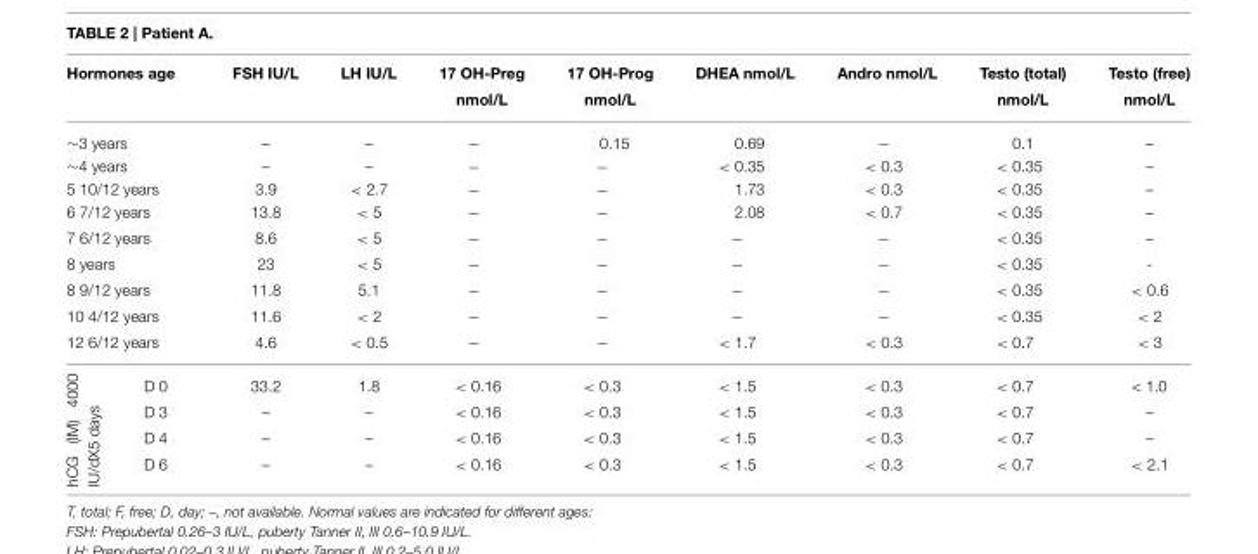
<table><thead><tr><td colspan="2">Hormones age</td><td>FSH IU/L</td><td>LH IU/L</td><td>17 OH-Preg nmol/L</td><td>17 OH-Prog nmol/L</td><td>DHEA nmol/L</td><td>Andro nmol/L</td><td>Testo (total) nmol/L</td><td>Testo (free) nmol/L</td></tr></thead><tbody><tr><td colspan="2">∼3 years</td><td>–</td><td>–</td><td>−</td><td>0.15</td><td>0.69</td><td>−</td><td>0.1</td><td>–</td></tr><tr><td colspan="2">∼4 years</td><td>–</td><td>–</td><td>−</td><td>−</td><td>&lt; 0.35</td><td>&lt; 0.3</td><td>&lt; 0.35</td><td>–</td></tr><tr><td colspan="2">5 10/12 years</td><td>3.9</td><td>&lt; 2.7</td><td>−</td><td>−</td><td>1.73</td><td>&lt; 0.3</td><td>&lt; 0.35</td><td>–</td></tr><tr><td colspan="2">6 7/12 years</td><td>13.8</td><td>&lt; 5</td><td>−</td><td>−</td><td>2.08</td><td>&lt; 0.7</td><td>&lt; 0.35</td><td>–</td></tr><tr><td colspan="2">7 6/12 years</td><td>8.6</td><td>&lt; 5</td><td>−</td><td>−</td><td>−</td><td>−</td><td>&lt; 0.35</td><td>–</td></tr><tr><td colspan="2">8 years</td><td>23</td><td>&lt; 5</td><td>−</td><td>−</td><td>−</td><td>−</td><td>&lt; 0.35</td><td>-</td></tr><tr><td colspan="2">8 9/12 years</td><td>11.8</td><td>5.1</td><td>−</td><td>−</td><td>−</td><td>−</td><td>&lt; 0.35</td><td>&lt; 0.6</td></tr><tr><td colspan="2">10 4/12 years</td><td>11.6</td><td>&lt; 2</td><td>−</td><td>−</td><td>−</td><td>−</td><td>&lt; 0.35</td><td>&lt; 2</td></tr><tr><td colspan="2">12 6/12 years</td><td>4.6</td><td>&lt; 0.5</td><td>−</td><td>−</td><td>&lt; 1.7</td><td>&lt; 0.3</td><td>&lt; 0.7</td><td>&lt; 3</td></tr><tr><td rowspan="4">hCG (IM) 4000 IU/dX5 days</td><td>D 0</td><td>33.2</td><td>1.8</td><td>&lt; 0.16</td><td>&lt; 0.3</td><td>&lt; 1.5</td><td>&lt; 0.3</td><td>&lt; 0.7</td><td>&lt; 1.0</td></tr><tr><td>D 3</td><td>–</td><td>–</td><td>&lt; 0.16</td><td>&lt; 0.3</td><td>&lt; 1.5</td><td>&lt; 0.3</td><td>&lt; 0.7</td><td>–</td></tr><tr><td>D 4</td><td>–</td><td>–</td><td>&lt; 0.16</td><td>&lt; 0.3</td><td>&lt; 1.5</td><td>&lt; 0.3</td><td>&lt; 0.7</td><td>–</td></tr><tr><td>D 6</td><td>–</td><td>–</td><td>&lt; 0.16</td><td>&lt; 0.3</td><td>&lt; 1.5</td><td>&lt; 0.3</td><td>&lt; 0.7</td><td>&lt; 2.1</td></tr></tbody></table>